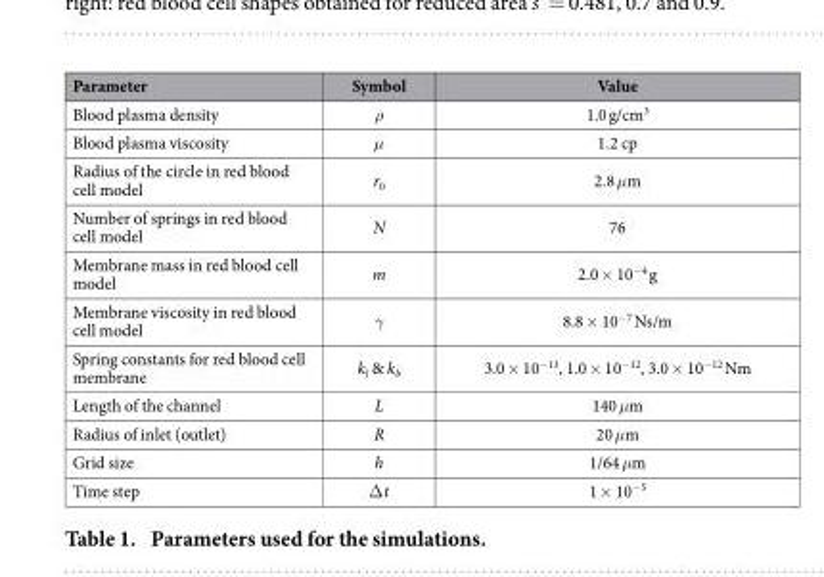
<table><thead><tr><td>Parameter</td><td>Symbol</td><td>Value</td></tr></thead><tbody><tr><td>Blood plasma density</td><td>ρ</td><td>1.0 g/cm<sup>3</sup></td></tr><tr><td>Blood plasma viscosity</td><td>μ</td><td>1.2 cp</td></tr><tr><td>Radius of the circle in red blood cell model</td><td>r<sub>0</sub></td><td>2.8 μm</td></tr><tr><td>Number of springs in red blood cell model</td><td>N</td><td>76</td></tr><tr><td>Membrane mass in red blood cell model</td><td>m</td><td>2.0 × 10<sup>−4</sup> g</td></tr><tr><td>Membrane viscosity in red blood cell model</td><td>γ</td><td>8.8 × 10<sup>−7</sup> Ns/m</td></tr><tr><td>Spring constants for red blood cell membrane</td><td>k<sub>l</sub> &amp; k<sub>b</sub></td><td>3.0 × 10<sup>−13</sup>, 1.0 × 10<sup>−12</sup>, 3.0 × 10<sup>−12</sup> Nm</td></tr><tr><td>Length of the channel</td><td>L</td><td>140 μm</td></tr><tr><td>Radius of inlet (outlet)</td><td>R</td><td>20 μm</td></tr><tr><td>Grid size</td><td>h</td><td>1/64 μm</td></tr><tr><td>Time step</td><td>Δ t</td><td>1 × 10<sup>−5</sup></td></tr></tbody></table>